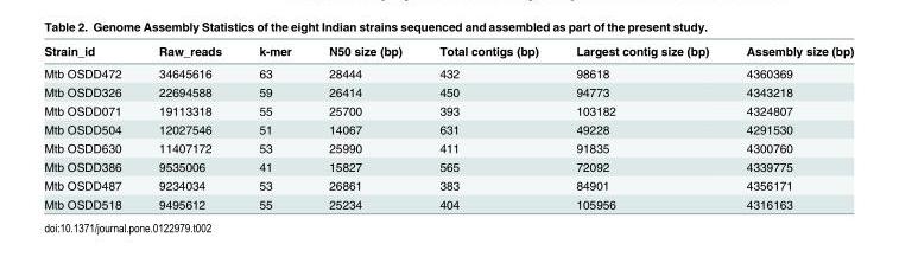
<table><thead><tr><td>Strain_id</td><td>Raw_reads</td><td>k-mer</td><td>N50 size (bp)</td><td>Total contigs (bp)</td><td>Largest contig size (bp)</td><td>Assembly size (bp)</td></tr></thead><tbody><tr><td>Mtb OSDD472</td><td>34645616</td><td>63</td><td>28444</td><td>432</td><td>98618</td><td>4360369</td></tr><tr><td>Mtb OSDD326</td><td>22694588</td><td>59</td><td>26414</td><td>450</td><td>94773</td><td>4343218</td></tr><tr><td>Mtb OSDD071</td><td>19113318</td><td>55</td><td>25700</td><td>393</td><td>103182</td><td>4324807</td></tr><tr><td>Mtb OSDD504</td><td>12027546</td><td>51</td><td>14067</td><td>631</td><td>49228</td><td>4291530</td></tr><tr><td>Mtb OSDD630</td><td>11407172</td><td>53</td><td>25990</td><td>411</td><td>91835</td><td>4300760</td></tr><tr><td>Mtb OSDD386</td><td>9535006</td><td>41</td><td>15827</td><td>565</td><td>72092</td><td>4339775</td></tr><tr><td>Mtb OSDD487</td><td>9234034</td><td>53</td><td>26861</td><td>383</td><td>84901</td><td>4356171</td></tr><tr><td>Mtb OSDD518</td><td>9495612</td><td>55</td><td>25234</td><td>404</td><td>105956</td><td>4316163</td></tr></tbody></table>